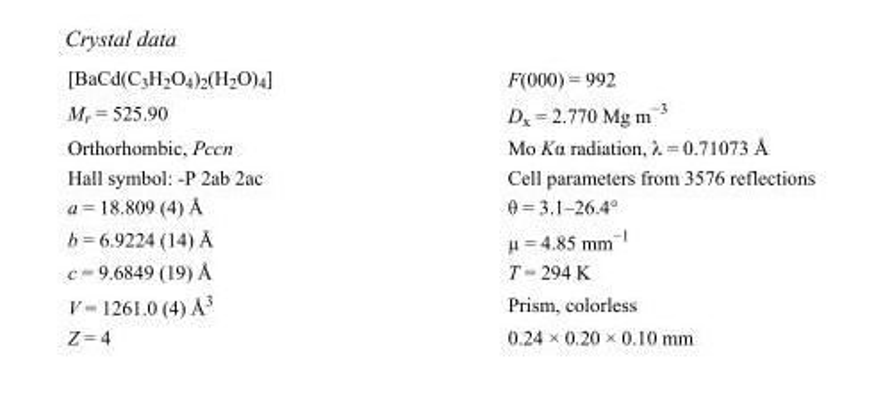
<table><tbody><tr><td>[BaCd(C<sub>3</sub>H<sub>2</sub>O<sub>4</sub>)<sub>2</sub>(H<sub>2</sub>O)<sub>4</sub>]</td><td>F(000) = 992</td></tr><tr><td>M<sub>r</sub> = 525.90</td><td>D<sub>x</sub> = 2.770 Mg m<sup>−3</sup></td></tr><tr><td>Orthorhombic, Pccn</td><td>Mo Kα radiation, λ = 0.71073 Å</td></tr><tr><td>Hall symbol: -P 2ab 2ac</td><td>Cell parameters from 3576 reflections</td></tr><tr><td>a = 18.809 (4) Å</td><td>θ = 3.1–26.4°</td></tr><tr><td>b = 6.9224 (14) Å</td><td>µ = 4.85 mm<sup>−1</sup></td></tr><tr><td>c = 9.6849 (19) Å</td><td>T = 294 K</td></tr><tr><td>V = 1261.0 (4) Å<sup>3</sup></td><td>Prism, colorless</td></tr><tr><td>Z = 4</td><td>0.24 × 0.20 × 0.10 mm</td></tr></tbody></table>